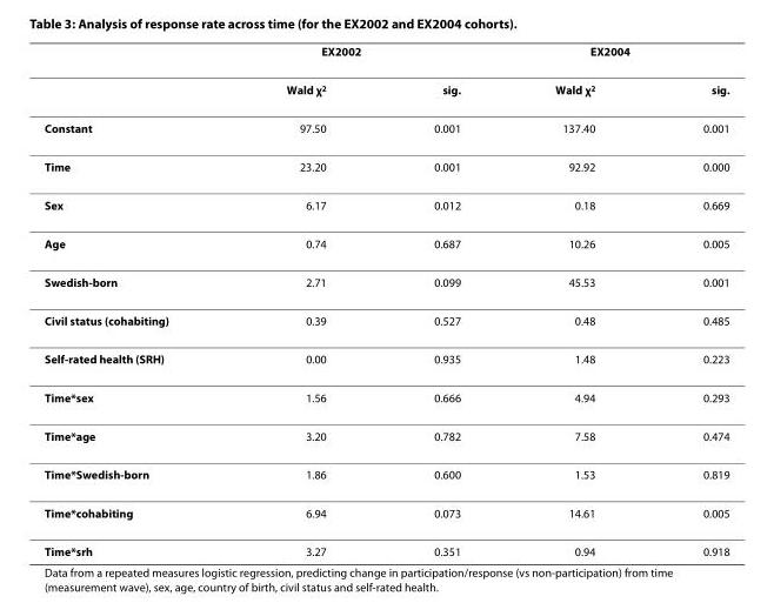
<table><thead><tr><td rowspan="2"></td><td colspan="2">EX2002</td><td colspan="2">EX2004</td></tr><tr><td>Wald χ<sup>2</sup></td><td>sig.</td><td>Wald χ<sup>2</sup></td><td>sig.</td></tr></thead><tbody><tr><td>Constant</td><td>97.50</td><td>0.001</td><td>137.40</td><td>0.001</td></tr><tr><td>Time</td><td>23.20</td><td>0.001</td><td>92.92</td><td>0.000</td></tr><tr><td>Sex</td><td>6.17</td><td>0.012</td><td>0.18</td><td>0.669</td></tr><tr><td>Age</td><td>0.74</td><td>0.687</td><td>10.26</td><td>0.005</td></tr><tr><td>Swedish-born</td><td>2.71</td><td>0.099</td><td>45.53</td><td>0.001</td></tr><tr><td>Civil status (cohabiting)</td><td>0.39</td><td>0.527</td><td>0.48</td><td>0.485</td></tr><tr><td>Self-rated health (SRH)</td><td>0.00</td><td>0.935</td><td>1.48</td><td>0.223</td></tr><tr><td>Time*sex</td><td>1.56</td><td>0.666</td><td>4.94</td><td>0.293</td></tr><tr><td>Time*age</td><td>3.20</td><td>0.782</td><td>7.58</td><td>0.474</td></tr><tr><td>Time*Swedish-born</td><td>1.86</td><td>0.600</td><td>1.53</td><td>0.819</td></tr><tr><td>Time*cohabiting</td><td>6.94</td><td>0.073</td><td>14.61</td><td>0.005</td></tr><tr><td>Time*srh</td><td>3.27</td><td>0.351</td><td>0.94</td><td>0.918</td></tr></tbody></table>